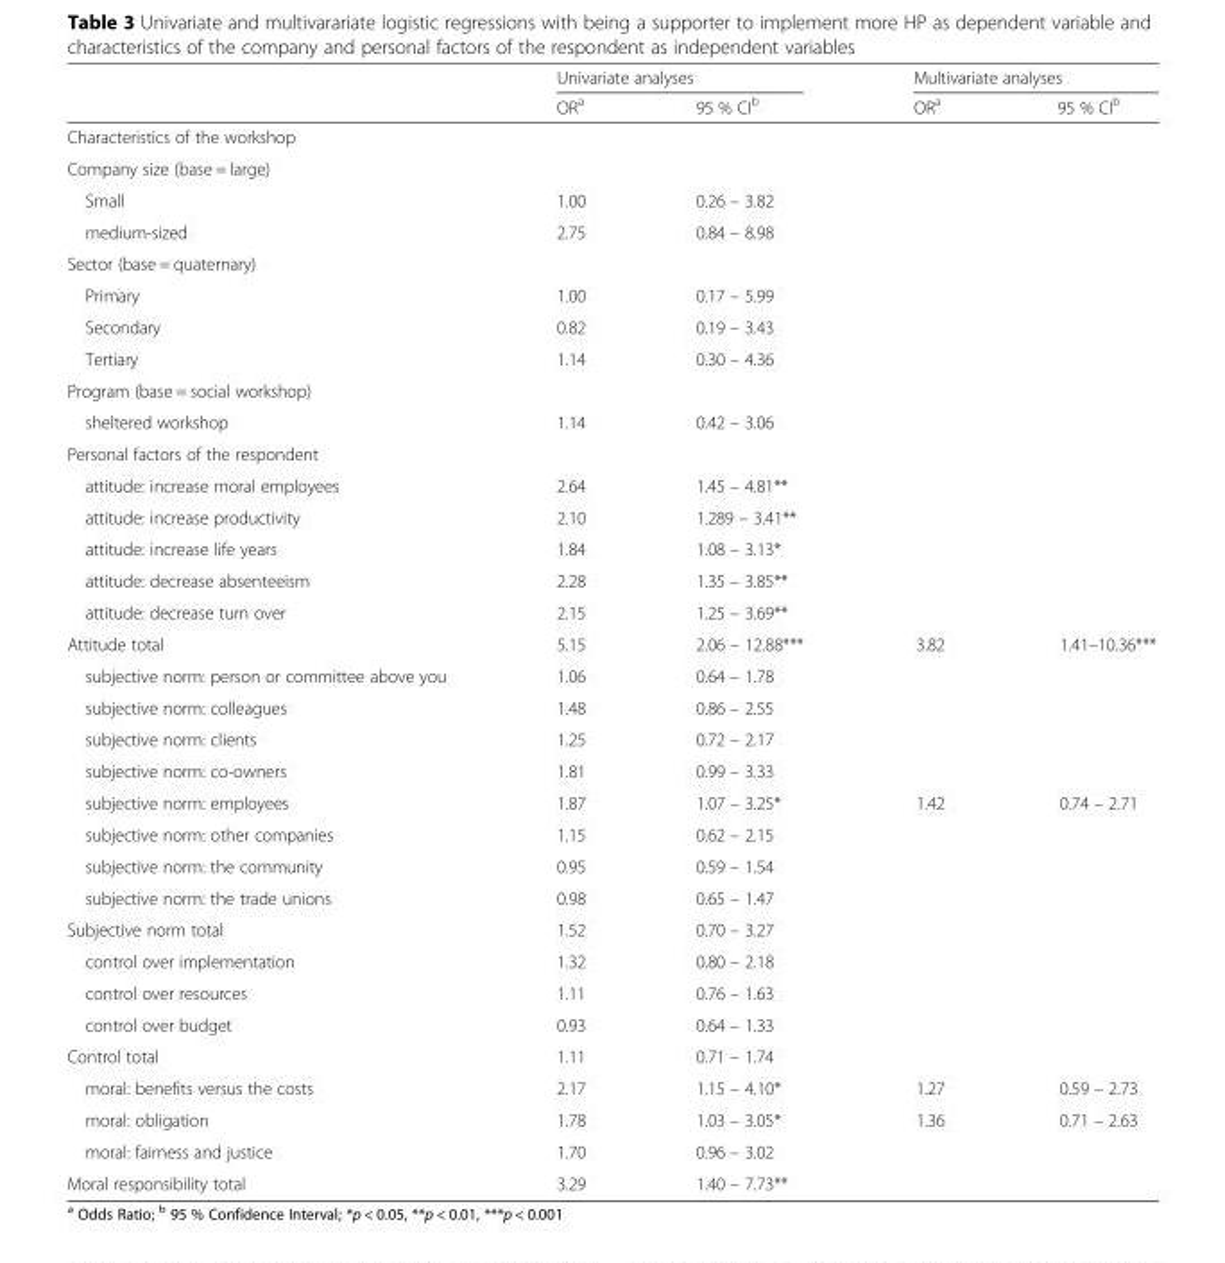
<table><thead><tr><td rowspan="2"></td><td colspan="2">Univariate analyses</td><td colspan="2">Multivariate analyses</td></tr><tr><td>OR<sup>a</sup></td><td>95 % CI<sup>b</sup></td><td>OR<sup>a</sup></td><td>95 % CI<sup>b</sup></td></tr></thead><tbody><tr><td colspan="5">Characteristics of the workshop</td></tr><tr><td colspan="5">Company size (base = large)</td></tr><tr><td>Small</td><td>1.00</td><td>0.26 – 3.82</td><td></td><td></td></tr><tr><td>medium-sized</td><td>2.75</td><td>0.84 – 8.98</td><td></td><td></td></tr><tr><td colspan="5">Sector (base = quaternary)</td></tr><tr><td>Primary</td><td>1.00</td><td>0.17 – 5.99</td><td></td><td></td></tr><tr><td>Secondary</td><td>0.82</td><td>0.19 – 3.43</td><td></td><td></td></tr><tr><td>Tertiary</td><td>1.14</td><td>0.30 – 4.36</td><td></td><td></td></tr><tr><td colspan="5">Program (base = social workshop)</td></tr><tr><td>sheltered workshop</td><td>1.14</td><td>0.42 – 3.06</td><td></td><td></td></tr><tr><td colspan="5">Personal factors of the respondent</td></tr><tr><td>attitude: increase moral employees</td><td>2.64</td><td>1.45 – 4.81**</td><td></td><td></td></tr><tr><td>attitude: increase productivity</td><td>2.10</td><td>1.289 – 3.41**</td><td></td><td></td></tr><tr><td>attitude: increase life years</td><td>1.84</td><td>1.08 – 3.13*</td><td></td><td></td></tr><tr><td>attitude: decrease absenteeism</td><td>2.28</td><td>1.35 – 3.85**</td><td></td><td></td></tr><tr><td>attitude: decrease turn over</td><td>2.15</td><td>1.25 – 3.69**</td><td></td><td></td></tr><tr><td>Attitude total</td><td>5.15</td><td>2.06 – 12.88***</td><td>3.82</td><td>1.41–10.36***</td></tr><tr><td>subjective norm: person or committee above you</td><td>1.06</td><td>0.64 – 1.78</td><td></td><td></td></tr><tr><td>subjective norm: colleagues</td><td>1.48</td><td>0.86 – 2.55</td><td></td><td></td></tr><tr><td>subjective norm: clients</td><td>1.25</td><td>0.72 – 2.17</td><td></td><td></td></tr><tr><td>subjective norm: co-owners</td><td>1.81</td><td>0.99 – 3.33</td><td></td><td></td></tr><tr><td>subjective norm: employees</td><td>1.87</td><td>1.07 – 3.25*</td><td>1.42</td><td>0.74 – 2.71</td></tr><tr><td>subjective norm: other companies</td><td>1.15</td><td>0.62 – 2.15</td><td></td><td></td></tr><tr><td>subjective norm: the community</td><td>0.95</td><td>0.59 – 1.54</td><td></td><td></td></tr><tr><td>subjective norm: the trade unions</td><td>0.98</td><td>0.65 – 1.47</td><td></td><td></td></tr><tr><td>Subjective norm total</td><td>1.52</td><td>0.70 – 3.27</td><td></td><td></td></tr><tr><td>control over implementation</td><td>1.32</td><td>0.80 – 2.18</td><td></td><td></td></tr><tr><td>control over resources</td><td>1.11</td><td>0.76 – 1.63</td><td></td><td></td></tr><tr><td>control over budget</td><td>0.93</td><td>0.64 – 1.33</td><td></td><td></td></tr><tr><td>Control total</td><td>1.11</td><td>0.71 – 1.74</td><td></td><td></td></tr><tr><td>moral: benefits versus the costs</td><td>2.17</td><td>1.15 – 4.10*</td><td>1.27</td><td>0.59 – 2.73</td></tr><tr><td>moral: obligation</td><td>1.78</td><td>1.03 – 3.05*</td><td>1.36</td><td>0.71 – 2.63</td></tr><tr><td>moral: fairness and justice</td><td>1.70</td><td>0.96 – 3.02</td><td></td><td></td></tr><tr><td>Moral responsibility total</td><td>3.29</td><td>1.40 – 7.73**</td><td></td><td></td></tr></tbody></table>